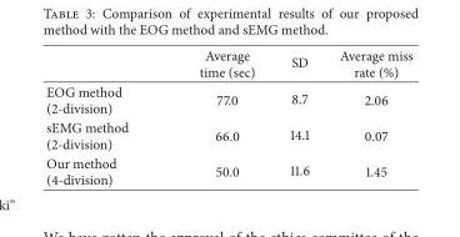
<table><thead><tr><td></td><td>Average time (sec)</td><td>SD</td><td>Average miss rate (%)</td></tr></thead><tbody><tr><td>EOG method (2-division)</td><td>77.0</td><td>8.7</td><td>2.06</td></tr><tr><td>sEMG method (2-division)</td><td>66.0</td><td>14.1</td><td>0.07</td></tr><tr><td>Our method (4-division)</td><td>50.0</td><td>11.6</td><td>1.45</td></tr></tbody></table>